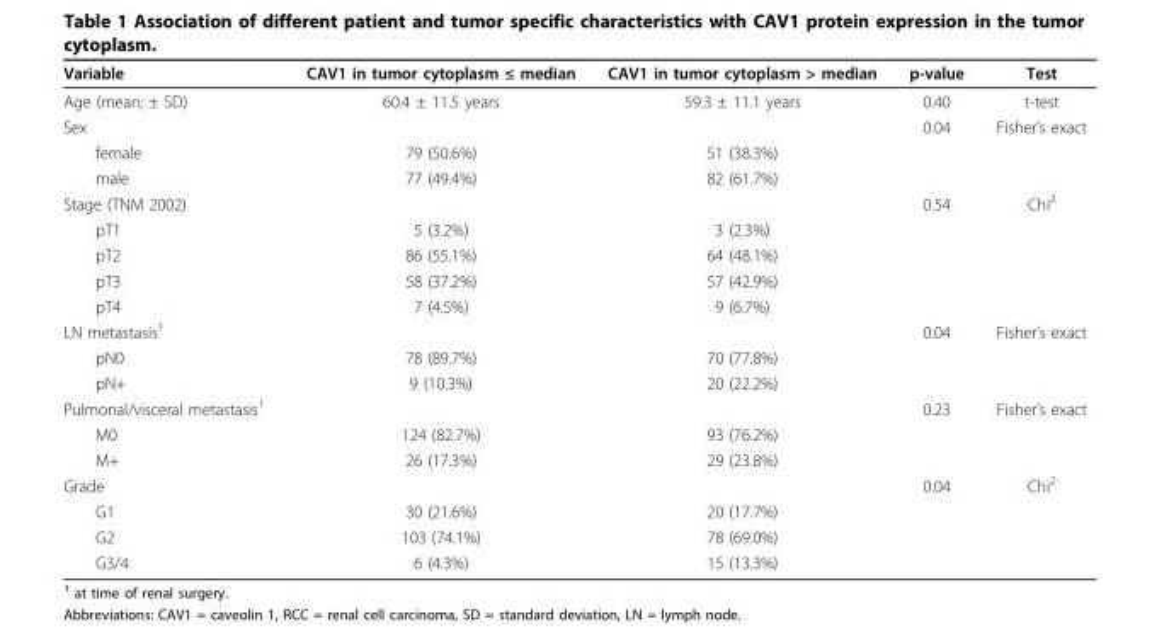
<table><thead><tr><td>Variable</td><td>CAV1 in tumor cytoplasm ≤ median</td><td>CAV1 in tumor cytoplasm &gt; median</td><td>p-value</td><td>Test</td></tr></thead><tbody><tr><td>Age (mean; ± SD)</td><td>60.4 ± 11.5 years</td><td>59.3 ± 11.1 years</td><td>0.40</td><td>t-test</td></tr><tr><td>Sex</td><td></td><td></td><td>0.04</td><td>Fisher’s exact</td></tr><tr><td>female</td><td>79 (50.6%)</td><td>51 (38.3%)</td><td></td><td></td></tr><tr><td>male</td><td>77 (49.4%)</td><td>82 (61.7%)</td><td></td><td></td></tr><tr><td>Stage (TNM 2002)</td><td></td><td></td><td>0.54</td><td>Chi<sup>2</sup></td></tr><tr><td>pT1</td><td>5 (3.2%)</td><td>3 (2.3%)</td><td></td><td></td></tr><tr><td>pT2</td><td>86 (55.1%)</td><td>64 (48.1%)</td><td></td><td></td></tr><tr><td>pT3</td><td>58 (37.2%)</td><td>57 (42.9%)</td><td></td><td></td></tr><tr><td>pT4</td><td>7 (4.5%)</td><td>9 (6.7%)</td><td></td><td></td></tr><tr><td>LN metastasis<sup>1</sup></td><td></td><td></td><td>0.04</td><td>Fisher’s exact</td></tr><tr><td>pN0</td><td>78 (89.7%)</td><td>70 (77.8%)</td><td></td><td></td></tr><tr><td>pN+</td><td>9 (10.3%)</td><td>20 (22.2%)</td><td></td><td></td></tr><tr><td>Pulmonal/visceral metastasis<sup>1</sup></td><td></td><td></td><td>0.23</td><td>Fisher’s exact</td></tr><tr><td>M0</td><td>124 (82.7%)</td><td>93 (76.2%)</td><td></td><td></td></tr><tr><td>M+</td><td>26 (17.3%)</td><td>29 (23.8%)</td><td></td><td></td></tr><tr><td>Grade</td><td></td><td></td><td>0.04</td><td>Chi<sup>2</sup></td></tr><tr><td>G1</td><td>30 (21.6%)</td><td>20 (17.7%)</td><td></td><td></td></tr><tr><td>G2</td><td>103 (74.1%)</td><td>78 (69.0%)</td><td></td><td></td></tr><tr><td>G3/4</td><td>6 (4.3%)</td><td>15 (13.3%)</td><td></td><td></td></tr></tbody></table>